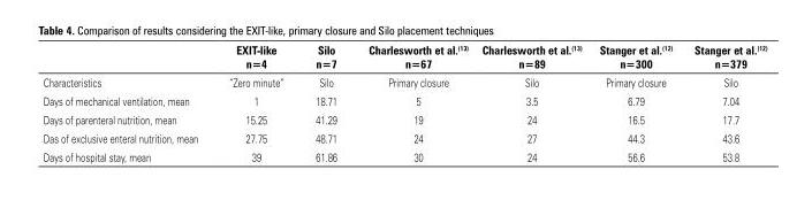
<table><thead><tr><td></td><td>EXIT-like n=4</td><td>Silo n=7</td><td>Charlesworth et al.<sup>(13)</sup> n=67</td><td>Charlesworth et al.<sup>(13)</sup> n=89</td><td>Stanger et al.<sup>(12)</sup> n=300</td><td>Stanger et al.<sup>(12)</sup> n=379</td></tr></thead><tbody><tr><td>Characteristics</td><td>“Zero minute”</td><td>Silo</td><td>Primary closure</td><td>Silo</td><td>Primary closure</td><td>Silo</td></tr><tr><td>Days of mechanical ventilation, mean</td><td>1</td><td>18.71</td><td>5</td><td>3.5</td><td>6.79</td><td>7.04</td></tr><tr><td>Days of parenteral nutrition, mean</td><td>15.25</td><td>41.29</td><td>19</td><td>24</td><td>16.5</td><td>17.7</td></tr><tr><td>Das of exclusive enteral nutrition, mean</td><td>27.75</td><td>48.71</td><td>24</td><td>27</td><td>44.3</td><td>43.6</td></tr><tr><td>Days of hospital stay, mean</td><td>39</td><td>61.86</td><td>30</td><td>24</td><td>56.6</td><td>53.8</td></tr></tbody></table>